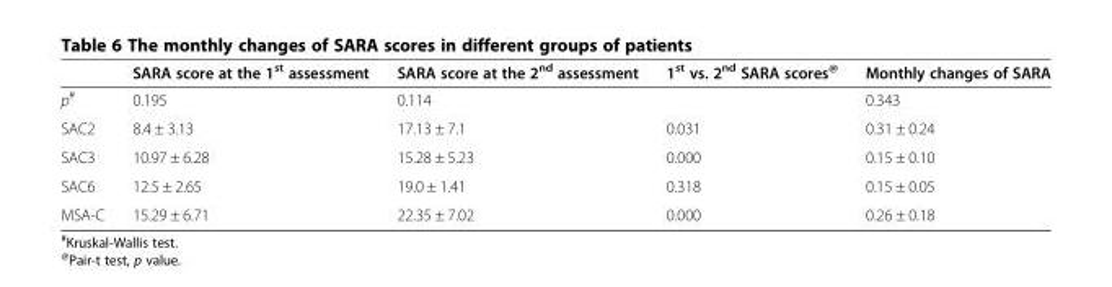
<table><thead><tr><td></td><td>SARA score at the 1<sup>st</sup> assessment</td><td>SARA score at the 2<sup>nd</sup> assessment</td><td>1<sup>st</sup> vs. 2<sup>nd</sup> SARA scores<sup>@</sup></td><td>Monthly changes of SARA</td></tr></thead><tbody><tr><td>p<sup>#</sup></td><td>0.195</td><td>0.114</td><td></td><td>0.343</td></tr><tr><td>SAC2</td><td>8.4 ± 3.13</td><td>17.13 ± 7.1</td><td>0.031</td><td>0.31 ± 0.24</td></tr><tr><td>SAC3</td><td>10.97 ± 6.28</td><td>15.28 ± 5.23</td><td>0.000</td><td>0.15 ± 0.10</td></tr><tr><td>SAC6</td><td>12.5 ± 2.65</td><td>19.0 ± 1.41</td><td>0.318</td><td>0.15 ± 0.05</td></tr><tr><td>MSA-C</td><td>15.29 ± 6.71</td><td>22.35 ± 7.02</td><td>0.000</td><td>0.26 ± 0.18</td></tr></tbody></table>